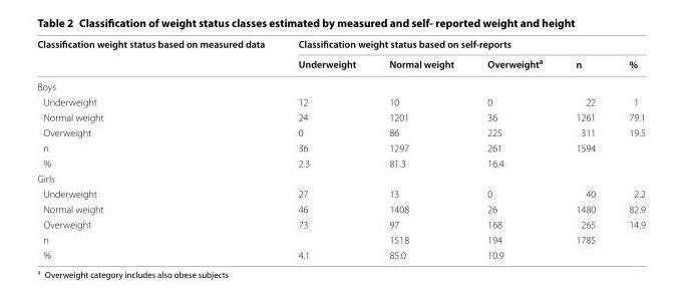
<table><thead><tr><td rowspan="2">Classification weight status based on measured data</td><td colspan="5">Classification weight status based on self-reports</td></tr><tr><td>Underweight</td><td>Normal weight</td><td>Overweight<sup>a</sup></td><td>n</td><td>%</td></tr></thead><tbody><tr><td colspan="6">Boys</td></tr><tr><td>Underweight</td><td>12</td><td>10</td><td>0</td><td>22</td><td>1</td></tr><tr><td>Normal weight</td><td>24</td><td>1201</td><td>36</td><td>1261</td><td>79.1</td></tr><tr><td>Overweight</td><td>0</td><td>86</td><td>225</td><td>311</td><td>19.5</td></tr><tr><td>n</td><td>36</td><td>1297</td><td>261</td><td>1594</td><td></td></tr><tr><td>%</td><td>2.3</td><td>81.3</td><td>16.4</td><td></td><td></td></tr><tr><td colspan="6">Girls</td></tr><tr><td>Underweight</td><td>27</td><td>13</td><td>0</td><td>40</td><td>2.2</td></tr><tr><td>Normal weight</td><td>46</td><td>1408</td><td>26</td><td>1480</td><td>82.9</td></tr><tr><td>Overweight</td><td>73</td><td>97</td><td>168</td><td>265</td><td>14.9</td></tr><tr><td>n</td><td></td><td>1518</td><td>194</td><td>1785</td><td></td></tr><tr><td>%</td><td>4.1</td><td>85.0</td><td>10.9</td><td></td><td></td></tr></tbody></table>